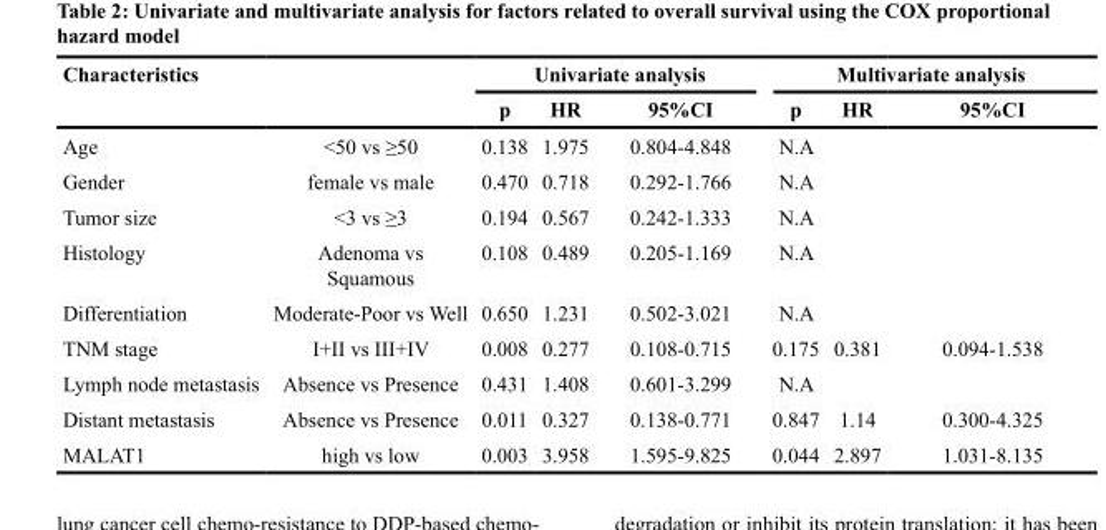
<table><thead><tr><td colspan="2">Characteristics</td><td colspan="3">Univariate analysis</td><td colspan="3">Multivariate analysis</td></tr><tr><td></td><td></td><td>p</td><td>HR</td><td>95%CI</td><td>p</td><td>HR</td><td>95%CI</td></tr></thead><tbody><tr><td>Age</td><td>&lt;50 vs ≥50</td><td>0.138</td><td>1.975</td><td>0.804-4.848</td><td>N.A</td><td></td><td></td></tr><tr><td>Gender</td><td>female vs male</td><td>0.470</td><td>0.718</td><td>0.292-1.766</td><td>N.A</td><td></td><td></td></tr><tr><td>Tumor size</td><td>&lt;3 vs ≥3</td><td>0.194</td><td>0.567</td><td>0.242-1.333</td><td>N.A</td><td></td><td></td></tr><tr><td>Histology</td><td>Adenoma vs Squamous</td><td>0.108</td><td>0.489</td><td>0.205-1.169</td><td>N.A</td><td></td><td></td></tr><tr><td>Differentiation</td><td>Moderate-Poor vs Well</td><td>0.650</td><td>1.231</td><td>0.502-3.021</td><td>N.A</td><td></td><td></td></tr><tr><td>TNM stage</td><td>I+II vs III+IV</td><td>0.008</td><td>0.277</td><td>0.108-0.715</td><td>0.175</td><td>0.381</td><td>0.094-1.538</td></tr><tr><td>Lymph node metastasis</td><td>Absence vs Presence</td><td>0.431</td><td>1.408</td><td>0.601-3.299</td><td>N.A</td><td></td><td></td></tr><tr><td>Distant metastasis</td><td>Absence vs Presence</td><td>0.011</td><td>0.327</td><td>0.138-0.771</td><td>0.847</td><td>1.14</td><td>0.300-4.325</td></tr><tr><td>MALAT1</td><td>high vs low</td><td>0.003</td><td>3.958</td><td>1.595-9.825</td><td>0.044</td><td>2.897</td><td>1.031-8.135</td></tr></tbody></table>